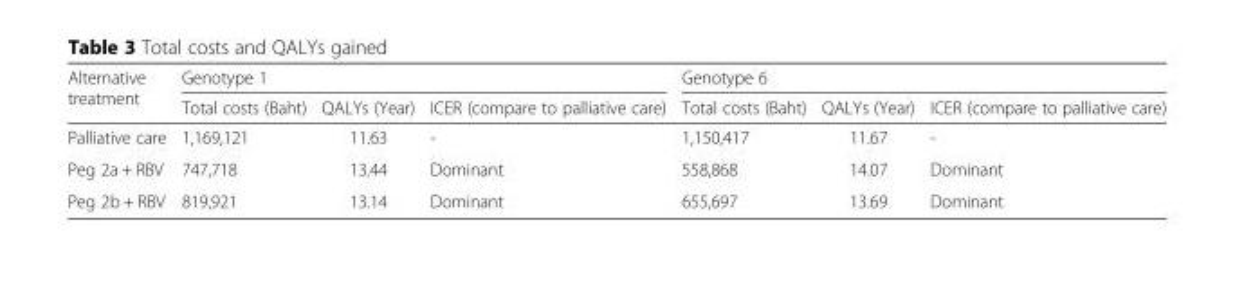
<table><thead><tr><td rowspan="2">Alternative treatment</td><td colspan="3">Genotype 1</td><td colspan="3">Genotype 6</td></tr><tr><td>Total costs (Baht)</td><td>QALYs (Year)</td><td>ICER (compare to palliative care)</td><td>Total costs (Baht)</td><td>QALYs (Year)</td><td>ICER (compare to palliative care)</td></tr></thead><tbody><tr><td>Palliative care</td><td>1,169,121</td><td>11.63</td><td>-</td><td>1,150,417</td><td>11.67</td><td>-</td></tr><tr><td>Peg 2a + RBV</td><td>747,718</td><td>13.44</td><td>Dominant</td><td>558,868</td><td>14.07</td><td>Dominant</td></tr><tr><td>Peg 2b + RBV</td><td>819,921</td><td>13.14</td><td>Dominant</td><td>655,697</td><td>13.69</td><td>Dominant</td></tr></tbody></table>